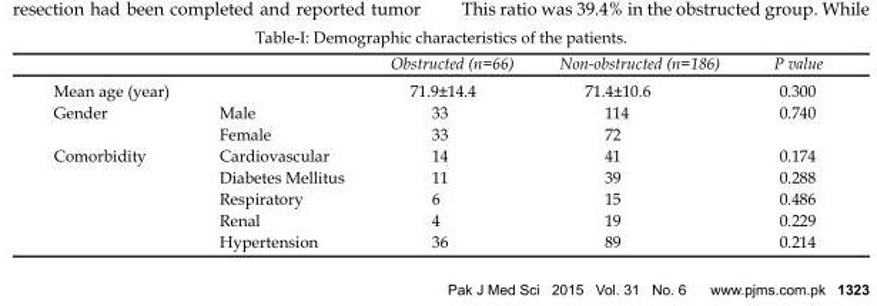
<table><thead><tr><td></td><td></td><td>Obstructed (n=66)</td><td>Non-obstructed (n=186)</td><td>P value</td></tr></thead><tbody><tr><td>Mean age (year)</td><td></td><td>71.9±14.4</td><td>71.4±10.6</td><td>0.300</td></tr><tr><td rowspan="2">Gender</td><td>Male</td><td>33</td><td>114</td><td>0.740</td></tr><tr><td>Female</td><td>33</td><td>72</td><td></td></tr><tr><td rowspan="5">Comorbidity</td><td>Cardiovascular</td><td>14</td><td>41</td><td>0.174</td></tr><tr><td>Diabetes Mellitus</td><td>11</td><td>39</td><td>0.288</td></tr><tr><td>Respiratory</td><td>6</td><td>15</td><td>0.486</td></tr><tr><td>Renal</td><td>4</td><td>19</td><td>0.229</td></tr><tr><td>Hypertension</td><td>36</td><td>89</td><td>0.214</td></tr></tbody></table>